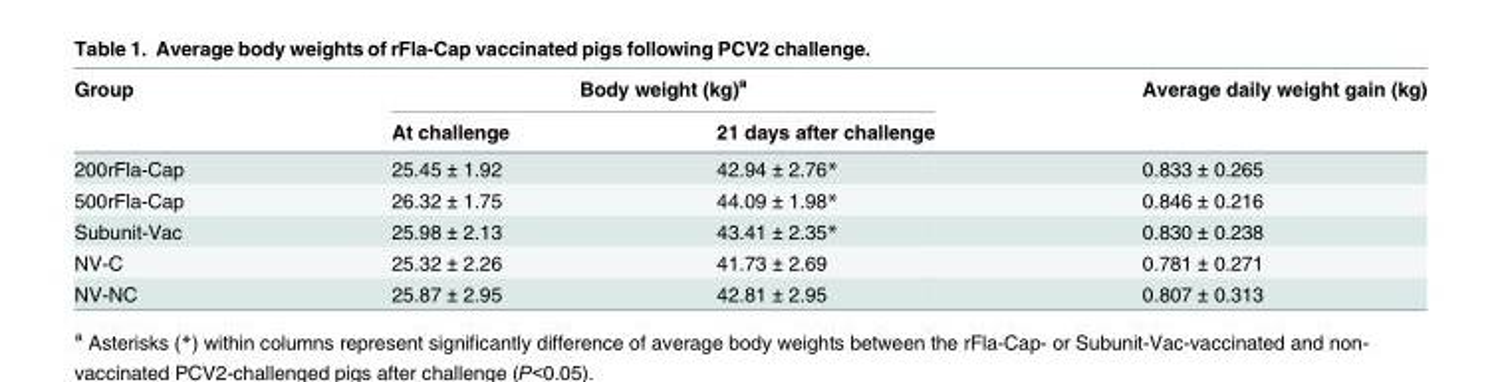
<table><thead><tr><td rowspan="2">Group</td><td colspan="2">Body weight (kg)<sup>a</sup></td><td rowspan="2">Average daily weight gain (kg)</td></tr><tr><td>At challenge</td><td>21 days after challenge</td></tr></thead><tbody><tr><td>200rFla-Cap</td><td>25.45 ± 1.92</td><td>42.94 ± 2.76*</td><td>0.833 ± 0.265</td></tr><tr><td>500rFla-Cap</td><td>26.32 ± 1.75</td><td>44.09 ± 1.98*</td><td>0.846 ± 0.216</td></tr><tr><td>Subunit-Vac</td><td>25.98 ± 2.13</td><td>43.41 ± 2.35*</td><td>0.830 ± 0.238</td></tr><tr><td>NV-C</td><td>25.32 ± 2.26</td><td>41.73 ± 2.69</td><td>0.781 ± 0.271</td></tr><tr><td>NV-NC</td><td>25.87 ± 2.95</td><td>42.81 ± 2.95</td><td>0.807 ± 0.313</td></tr></tbody></table>